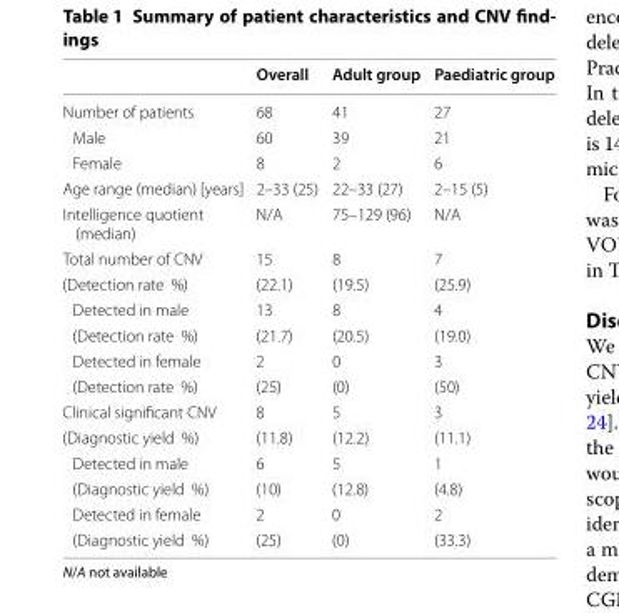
<table><thead><tr><td></td><td>Overall</td><td>Adult group</td><td>Paediatric group</td></tr></thead><tbody><tr><td>Number of patients</td><td>68</td><td>41</td><td>27</td></tr><tr><td>Male</td><td>60</td><td>39</td><td>21</td></tr><tr><td>Female</td><td>8</td><td>2</td><td>6</td></tr><tr><td>Age range (median) [years]</td><td>2–33 (25)</td><td>22–33 (27)</td><td>2–15 (5)</td></tr><tr><td>Intelligence quotient (median)</td><td>N/A</td><td>75–129 (96)</td><td>N/A</td></tr><tr><td>Total number of CNV</td><td>15</td><td>8</td><td>7</td></tr><tr><td>(Detection rate %)</td><td>(22.1)</td><td>(19.5)</td><td>(25.9)</td></tr><tr><td>Detected in male</td><td>13</td><td>8</td><td>4</td></tr><tr><td>(Detection rate %)</td><td>(21.7)</td><td>(20.5)</td><td>(19.0)</td></tr><tr><td>Detected in female</td><td>2</td><td>0</td><td>3</td></tr><tr><td>(Detection rate %)</td><td>(25)</td><td>(0)</td><td>(50)</td></tr><tr><td>Clinical significant CNV</td><td>8</td><td>5</td><td>3</td></tr><tr><td>(Diagnostic yield %)</td><td>(11.8)</td><td>(12.2)</td><td>(11.1)</td></tr><tr><td>Detected in male</td><td>6</td><td>5</td><td>1</td></tr><tr><td>(Diagnostic yield %)</td><td>(10)</td><td>(12.8)</td><td>(4.8)</td></tr><tr><td>Detected in female</td><td>2</td><td>0</td><td>2</td></tr><tr><td>(Diagnostic yield %)</td><td>(25)</td><td>(0)</td><td>(33.3)</td></tr></tbody></table>